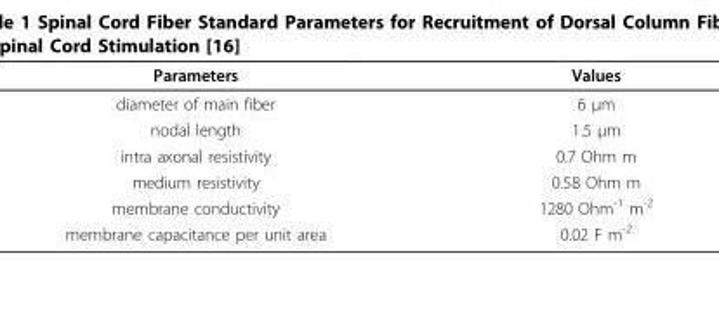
<table><thead><tr><td>Parameters</td><td>Values</td></tr></thead><tbody><tr><td>diameter of main fiber</td><td>6 μm</td></tr><tr><td>nodal length</td><td>1.5 μm</td></tr><tr><td>intra axonal resistivity</td><td>0.7 Ohm m</td></tr><tr><td>medium resistivity</td><td>0.58 Ohm m</td></tr><tr><td>membrane conductivity</td><td>1280 Ohm<sup>-1</sup> m<sup>-2</sup></td></tr><tr><td>membrane capacitance per unit area</td><td>0.02 F m<sup>-2</sup></td></tr></tbody></table>